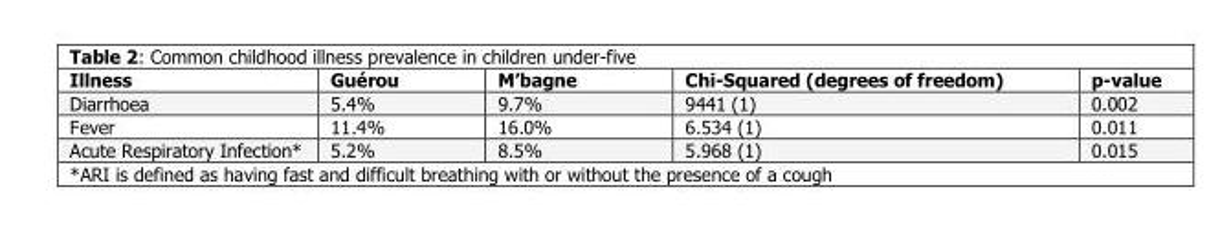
<table><thead><tr><td>Illness</td><td>Guérou</td><td>M’bagne</td><td>Chi-Squared (degrees of freedom)</td><td>p-value</td></tr></thead><tbody><tr><td>Diarrhoea</td><td>5.4%</td><td>9.7%</td><td>9441 (1)</td><td>0.002</td></tr><tr><td>Fever</td><td>11.4%</td><td>16.0%</td><td>6.534 (1)</td><td>0.011</td></tr><tr><td>Acute Respiratory Infection*</td><td>5.2%</td><td>8.5%</td><td>5.968 (1)</td><td>0.015</td></tr></tbody></table>